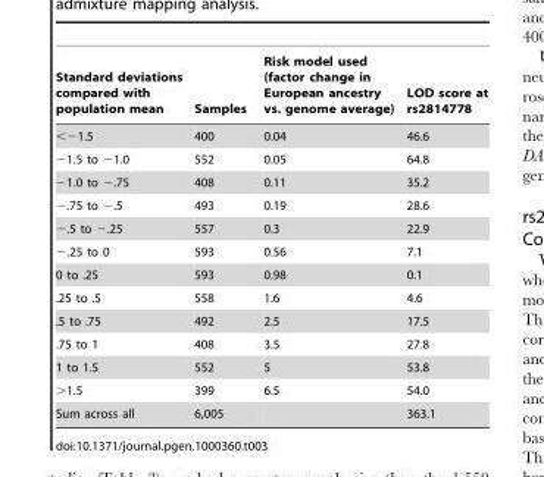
<table><thead><tr><td>Standard deviations compared with population mean</td><td>Samples</td><td>Risk model used (factor change in European ancestry vs. genome average)</td><td>LOD score at rs2814778</td></tr></thead><tbody><tr><td>&lt;−1.5</td><td>400</td><td>0.04</td><td>46.6</td></tr><tr><td>−1.5 to −1.0</td><td>552</td><td>0.05</td><td>64.8</td></tr><tr><td>−1.0 to −.75</td><td>408</td><td>0.11</td><td>35.2</td></tr><tr><td>−.75 to −.5</td><td>493</td><td>0.19</td><td>28.6</td></tr><tr><td>−.5 to −.25</td><td>557</td><td>0.3</td><td>22.9</td></tr><tr><td>−.25 to 0</td><td>593</td><td>0.56</td><td>7.1</td></tr><tr><td>0 to .25</td><td>593</td><td>0.98</td><td>0.1</td></tr><tr><td>.25 to .5</td><td>558</td><td>1.6</td><td>4.6</td></tr><tr><td>.5 to .75</td><td>492</td><td>2.5</td><td>17.5</td></tr><tr><td>.75 to 1</td><td>408</td><td>3.5</td><td>27.8</td></tr><tr><td>1 to 1.5</td><td>552</td><td>5</td><td>53.8</td></tr><tr><td>&gt;1.5</td><td>399</td><td>6.5</td><td>54.0</td></tr><tr><td>Sum across all</td><td>6,005</td><td></td><td>363.1</td></tr></tbody></table>